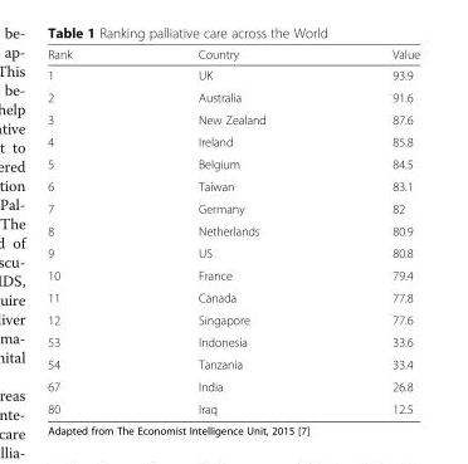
<table><thead><tr><td>Rank</td><td>Country</td><td>Value</td></tr></thead><tbody><tr><td>1</td><td>UK</td><td>93.9</td></tr><tr><td>2</td><td>Australia</td><td>91.6</td></tr><tr><td>3</td><td>New Zealand</td><td>87.6</td></tr><tr><td>4</td><td>Ireland</td><td>85.8</td></tr><tr><td>5</td><td>Belgium</td><td>84.5</td></tr><tr><td>6</td><td>Taiwan</td><td>83.1</td></tr><tr><td>7</td><td>Germany</td><td>82</td></tr><tr><td>8</td><td>Netherlands</td><td>80.9</td></tr><tr><td>9</td><td>US</td><td>80.8</td></tr><tr><td>10</td><td>France</td><td>79.4</td></tr><tr><td>11</td><td>Canada</td><td>77.8</td></tr><tr><td>12</td><td>Singapore</td><td>77.6</td></tr><tr><td>53</td><td>Indonesia</td><td>33.6</td></tr><tr><td>54</td><td>Tanzania</td><td>33.4</td></tr><tr><td>67</td><td>India</td><td>26.8</td></tr><tr><td>80</td><td>Iraq</td><td>12.5</td></tr></tbody></table>